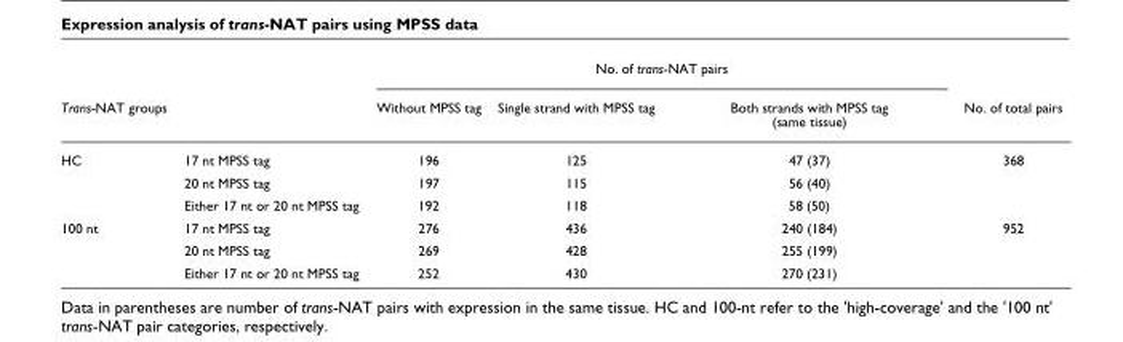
<table><thead><tr><td rowspan="2">Trans-NAT groups</td><td rowspan="2"></td><td colspan="3">No. of trans-NAT pairs</td><td rowspan="2">No. of total pairs</td></tr><tr><td>Without MPSS tag</td><td>Single strand with MPSS tag</td><td>Both strands with MPSS tag (same tissue)</td></tr></thead><tbody><tr><td rowspan="3">HC</td><td>17 nt MPSS tag</td><td>196</td><td>125</td><td>47 (37)</td><td>368</td></tr><tr><td>20 nt MPSS tag</td><td>197</td><td>115</td><td>56 (40)</td><td></td></tr><tr><td>Either 17 nt or 20 nt MPSS tag</td><td>192</td><td>118</td><td>58 (50)</td><td></td></tr><tr><td rowspan="3">100 nt</td><td>17 nt MPSS tag</td><td>276</td><td>436</td><td>240 (184)</td><td>952</td></tr><tr><td>20 nt MPSS tag</td><td>269</td><td>428</td><td>255 (199)</td><td></td></tr><tr><td>Either 17 nt or 20 nt MPSS tag</td><td>252</td><td>430</td><td>270 (231)</td><td></td></tr></tbody></table>